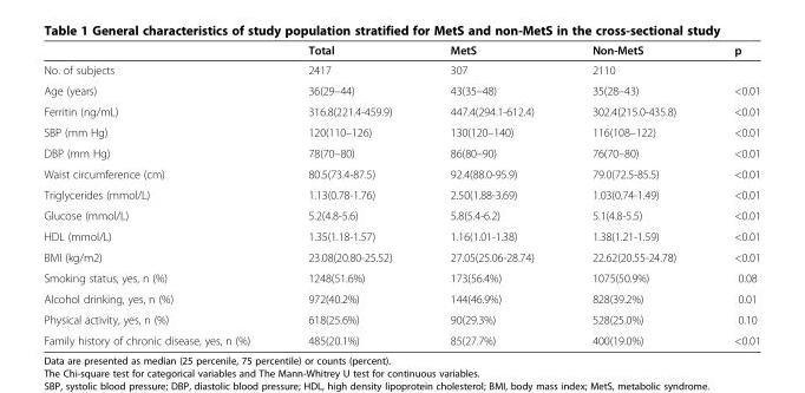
<table><thead><tr><td></td><td>Total</td><td>MetS</td><td>Non-MetS</td><td>p</td></tr></thead><tbody><tr><td>No. of subjects</td><td>2417</td><td>307</td><td>2110</td><td></td></tr><tr><td>Age (years)</td><td>36(29–44)</td><td>43(35–48)</td><td>35(28–43)</td><td>&lt;0.01</td></tr><tr><td>Ferritin (ng/mL)</td><td>316.8(221.4-459.9)</td><td>447.4(294.1-612.4)</td><td>302.4(215.0-435.8)</td><td>&lt;0.01</td></tr><tr><td>SBP (mm Hg)</td><td>120(110–126)</td><td>130(120–140)</td><td>116(108–122)</td><td>&lt;0.01</td></tr><tr><td>DBP (mm Hg)</td><td>78(70–80)</td><td>86(80–90)</td><td>76(70–80)</td><td>&lt;0.01</td></tr><tr><td>Waist circumference (cm)</td><td>80.5(73.4-87.5)</td><td>92.4(88.0-95.9)</td><td>79.0(72.5-85.5)</td><td>&lt;0.01</td></tr><tr><td>Triglycerides (mmol/L)</td><td>1.13(0.78-1.76)</td><td>2.50(1.88-3.69)</td><td>1.03(0.74-1.49)</td><td>&lt;0.01</td></tr><tr><td>Glucose (mmol/L)</td><td>5.2(4.8-5.6)</td><td>5.8(5.4-6.2)</td><td>5.1(4.8-5.5)</td><td>&lt;0.01</td></tr><tr><td>HDL (mmol/L)</td><td>1.35(1.18-1.57)</td><td>1.16(1.01-1.38)</td><td>1.38(1.21-1.59)</td><td>&lt;0.01</td></tr><tr><td>BMI (kg/m2)</td><td>23.08(20.80-25.52)</td><td>27.05(25.06-28.74)</td><td>22.62(20.55-24.78)</td><td>&lt;0.01</td></tr><tr><td>Smoking status, yes, n (%)</td><td>1248(51.6%)</td><td>173(56.4%)</td><td>1075(50.9%)</td><td>0.08</td></tr><tr><td>Alcohol drinking, yes, n (%)</td><td>972(40.2%)</td><td>144(46.9%)</td><td>828(39.2%)</td><td>0.01</td></tr><tr><td>Physical activity, yes, n (%)</td><td>618(25.6%)</td><td>90(29.3%)</td><td>528(25.0%)</td><td>0.10</td></tr><tr><td>Family history of chronic disease, yes, n (%)</td><td>485(20.1%)</td><td>85(27.7%)</td><td>400(19.0%)</td><td>&lt;0.01</td></tr></tbody></table>